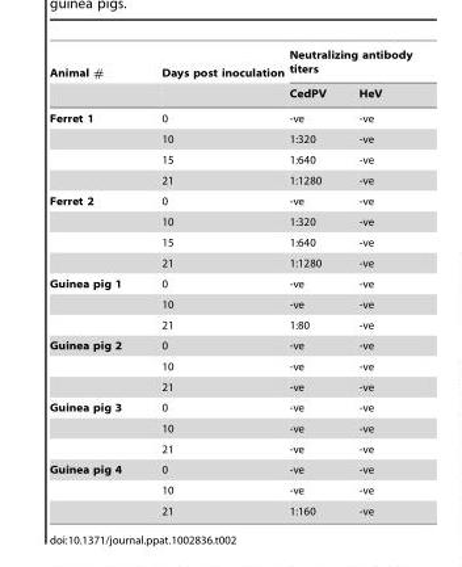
<table><thead><tr><td rowspan="2">Animal #</td><td rowspan="2">Days post inoculation</td><td colspan="2">Neutralizing antibody titers</td></tr><tr><td>CedPV</td><td>HeV</td></tr></thead><tbody><tr><td rowspan="4">Ferret 1</td><td>0</td><td>-ve</td><td>-ve</td></tr><tr><td>10</td><td>1:320</td><td>-ve</td></tr><tr><td>15</td><td>1:640</td><td>-ve</td></tr><tr><td>21</td><td>1:1280</td><td>-ve</td></tr><tr><td rowspan="4">Ferret 2</td><td>0</td><td>-ve</td><td>-ve</td></tr><tr><td>10</td><td>1:320</td><td>-ve</td></tr><tr><td>15</td><td>1:640</td><td>-ve</td></tr><tr><td>21</td><td>1:1280</td><td>-ve</td></tr><tr><td rowspan="3">Guinea pig 1</td><td>0</td><td>-ve</td><td>-ve</td></tr><tr><td>10</td><td>-ve</td><td>-ve</td></tr><tr><td>21</td><td>1:80</td><td>-ve</td></tr><tr><td rowspan="3">Guinea pig 2</td><td>0</td><td>-ve</td><td>-ve</td></tr><tr><td>10</td><td>-ve</td><td>-ve</td></tr><tr><td>21</td><td>-ve</td><td>-ve</td></tr><tr><td rowspan="3">Guinea pig 3</td><td>0</td><td>-ve</td><td>-ve</td></tr><tr><td>10</td><td>-ve</td><td>-ve</td></tr><tr><td>21</td><td>-ve</td><td>-ve</td></tr><tr><td rowspan="3">Guinea pig 4</td><td>0</td><td>-ve</td><td>-ve</td></tr><tr><td>10</td><td>-ve</td><td>-ve</td></tr><tr><td>21</td><td>1:160</td><td>-ve</td></tr></tbody></table>